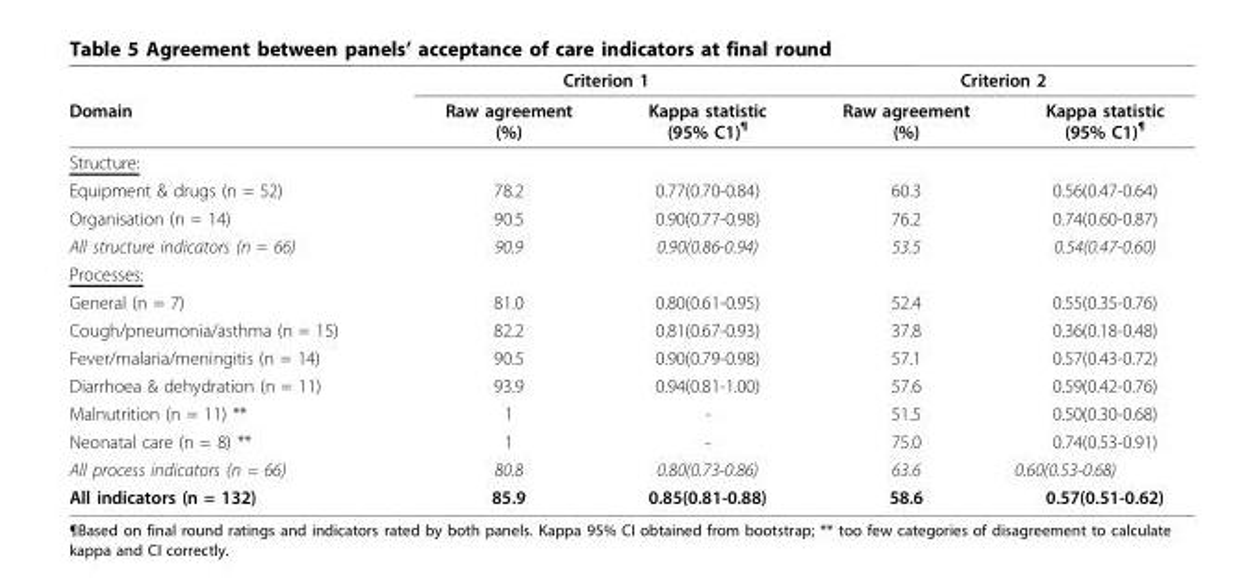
<table><thead><tr><td rowspan="2">Domain</td><td colspan="2">Criterion 1</td><td colspan="2">Criterion 2</td></tr><tr><td>Raw agreement (%)</td><td>Kappa statistic (95% C1)<sup>¶</sup></td><td>Raw agreement (%)</td><td>Kappa statistic (95% C1)<sup>¶</sup></td></tr></thead><tbody><tr><td colspan="5">Structure:</td></tr><tr><td>Equipment &amp; drugs (n = 52)</td><td>78.2</td><td>0.77(0.70-0.84)</td><td>60.3</td><td>0.56(0.47-0.64)</td></tr><tr><td>Organisation (n = 14)</td><td>90.5</td><td>0.90(0.77-0.98)</td><td>76.2</td><td>0.74(0.60-0.87)</td></tr><tr><td>All structure indicators (n = 66)</td><td>90.9</td><td>0.90(0.86-0.94)</td><td>53.5</td><td>0.54(0.47-0.60)</td></tr><tr><td colspan="5">Processes:</td></tr><tr><td>General (n = 7)</td><td>81.0</td><td>0.80(0.61-0.95)</td><td>52.4</td><td>0.55(0.35-0.76)</td></tr><tr><td>Cough/pneumonia/asthma (n = 15)</td><td>82.2</td><td>0.81(0.67-0.93)</td><td>37.8</td><td>0.36(0.18-0.48)</td></tr><tr><td>Fever/malaria/meningitis (n = 14)</td><td>90.5</td><td>0.90(0.79-0.98)</td><td>57.1</td><td>0.57(0.43-0.72)</td></tr><tr><td>Diarrhoea &amp; dehydration (n = 11)</td><td>93.9</td><td>0.94(0.81-1.00)</td><td>57.6</td><td>0.59(0.42-0.76)</td></tr><tr><td>Malnutrition (n = 11) **</td><td>1</td><td>-</td><td>51.5</td><td>0.50(0.30-0.68)</td></tr><tr><td>Neonatal care (n = 8) **</td><td>1</td><td>-</td><td>75.0</td><td>0.74(0.53-0.91)</td></tr><tr><td>All process indicators (n = 66)</td><td>80.8</td><td>0.80(0.73-0.86)</td><td>63.6</td><td>0.60(0.53-0.68)</td></tr><tr><td>All indicators (n = 132)</td><td>85.9</td><td>0.85(0.81-0.88)</td><td>58.6</td><td>0.57(0.51-0.62)</td></tr></tbody></table>